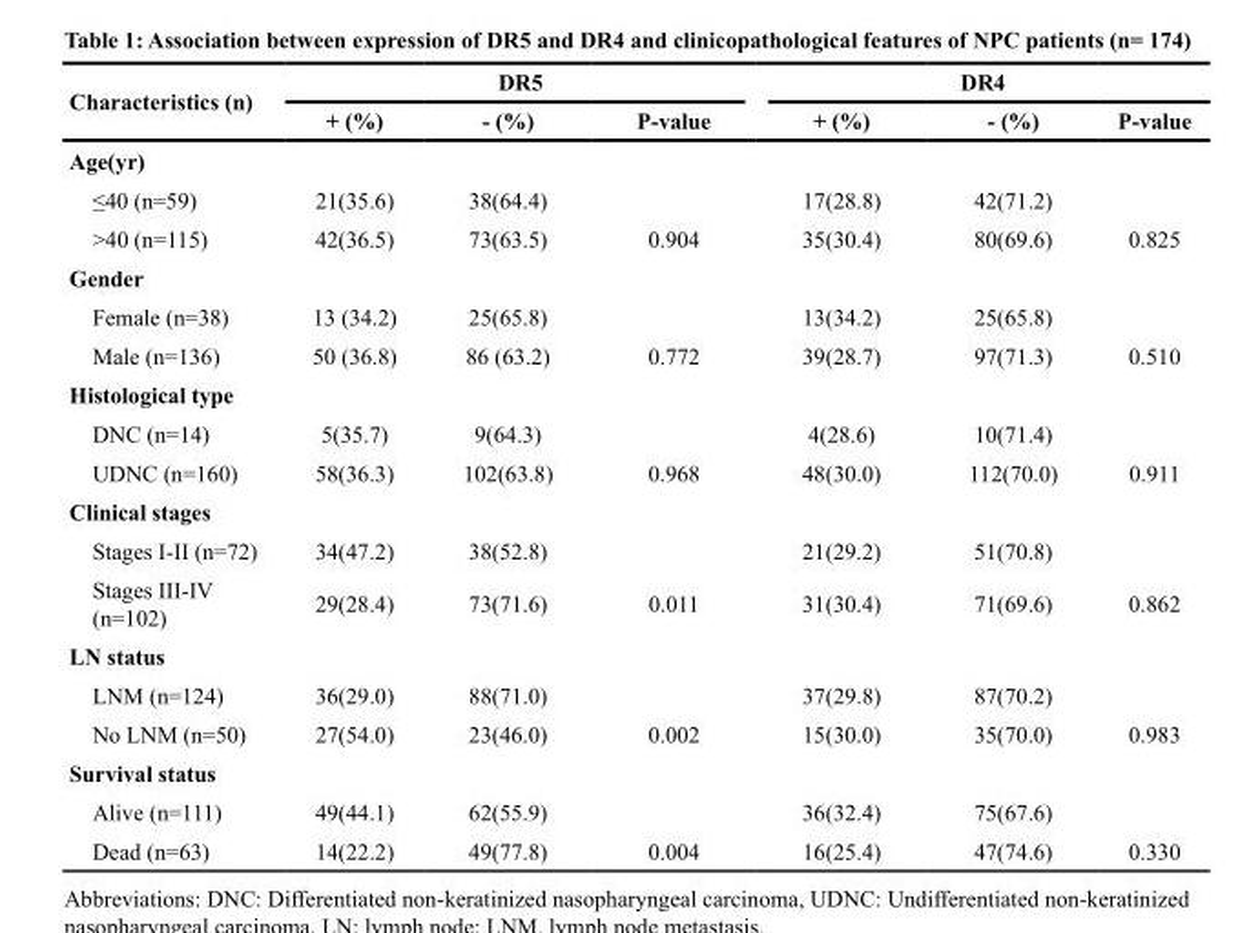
<table><thead><tr><td rowspan="2">Characteristics (n)</td><td colspan="3">DR5</td><td colspan="3">DR4</td></tr><tr><td>+ (%)</td><td>- (%)</td><td>P-value</td><td>+ (%)</td><td>- (%)</td><td>P-value</td></tr></thead><tbody><tr><td colspan="7">Age(yr)</td></tr><tr><td>≤40 (n=59)</td><td>21(35.6)</td><td>38(64.4)</td><td></td><td>17(28.8)</td><td>42(71.2)</td><td></td></tr><tr><td>&gt;40 (n=115)</td><td>42(36.5)</td><td>73(63.5)</td><td>0.904</td><td>35(30.4)</td><td>80(69.6)</td><td>0.825</td></tr><tr><td colspan="7">Gender</td></tr><tr><td>Female (n=38)</td><td>13 (34.2)</td><td>25(65.8)</td><td></td><td>13(34.2)</td><td>25(65.8)</td><td></td></tr><tr><td>Male (n=136)</td><td>50 (36.8)</td><td>86 (63.2)</td><td>0.772</td><td>39(28.7)</td><td>97(71.3)</td><td>0.510</td></tr><tr><td colspan="7">Histological type</td></tr><tr><td>DNC (n=14)</td><td>5(35.7)</td><td>9(64.3)</td><td></td><td>4(28.6)</td><td>10(71.4)</td><td></td></tr><tr><td>UDNC (n=160)</td><td>58(36.3)</td><td>102(63.8)</td><td>0.968</td><td>48(30.0)</td><td>112(70.0)</td><td>0.911</td></tr><tr><td colspan="7">Clinical stages</td></tr><tr><td>Stages I-II (n=72)</td><td>34(47.2)</td><td>38(52.8)</td><td></td><td>21(29.2)</td><td>51(70.8)</td><td></td></tr><tr><td>Stages III-IV (n=102)</td><td>29(28.4)</td><td>73(71.6)</td><td>0.011</td><td>31(30.4)</td><td>71(69.6)</td><td>0.862</td></tr><tr><td colspan="7">LN status</td></tr><tr><td>LNM (n=124)</td><td>36(29.0)</td><td>88(71.0)</td><td></td><td>37(29.8)</td><td>87(70.2)</td><td></td></tr><tr><td>No LNM (n=50)</td><td>27(54.0)</td><td>23(46.0)</td><td>0.002</td><td>15(30.0)</td><td>35(70.0)</td><td>0.983</td></tr><tr><td colspan="7">Survival status</td></tr><tr><td>Alive (n=111)</td><td>49(44.1)</td><td>62(55.9)</td><td></td><td>36(32.4)</td><td>75(67.6)</td><td></td></tr><tr><td>Dead (n=63)</td><td>14(22.2)</td><td>49(77.8)</td><td>0.004</td><td>16(25.4)</td><td>47(74.6)</td><td>0.330</td></tr></tbody></table>